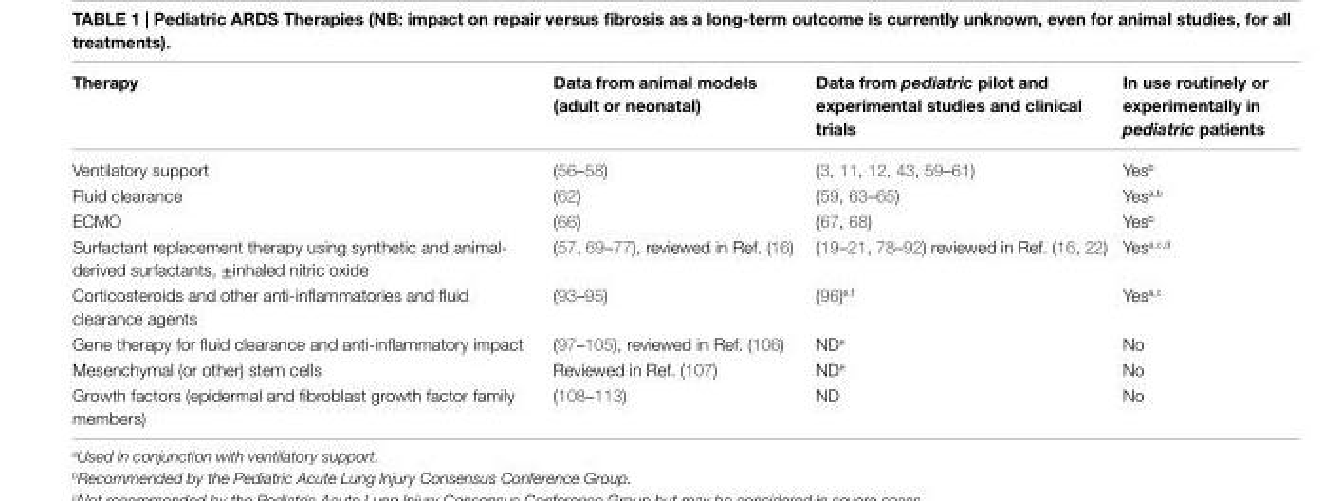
<table><thead><tr><td>Therapy</td><td>Data from animal models (adult or neonatal)</td><td>Data from pediatric pilot and experimental studies and clinical trials</td><td>in use routinely or experimentally in pediatric patients</td></tr></thead><tbody><tr><td>Ventilatory support</td><td>(56–58)</td><td>(3, 11, 12, 43, 59–61)</td><td>Yes<sup>b</sup></td></tr><tr><td>Fluid clearance</td><td>(62)</td><td>(59, 63–65)</td><td>Yes<sup>a,b</sup></td></tr><tr><td>ECMO</td><td>(66)</td><td>(67, 68)</td><td>Yes<sup>b</sup></td></tr><tr><td>Surfactant replacement therapy using synthetic and animal- derived surfactants, ±inhaled nitric oxide</td><td>(57, 69–77), reviewed in Ref. (16)</td><td>(19–21, 78–92) reviewed in Ref. (16, 22)</td><td>Yes<sup>a,c,d</sup></td></tr><tr><td>Corticosteroids and other anti-inflammatories and fluid clearance agents</td><td>(93–95)</td><td>(96)<sup>e,f</sup></td><td>Yes<sup>a,c</sup></td></tr><tr><td>Gene therapy for fluid clearance and anti-inflammatory impact</td><td>(97–105), reviewed in Ref. (106)</td><td>ND<sup>e</sup></td><td>No</td></tr><tr><td>Mesenchymal (or other) stem cells</td><td>Reviewed in Ref. (107)</td><td>ND<sup>e</sup></td><td>No</td></tr><tr><td>Growth factors (epidermal and fibroblast growth factor family members)</td><td>(108–113)</td><td>ND</td><td>No</td></tr></tbody></table>